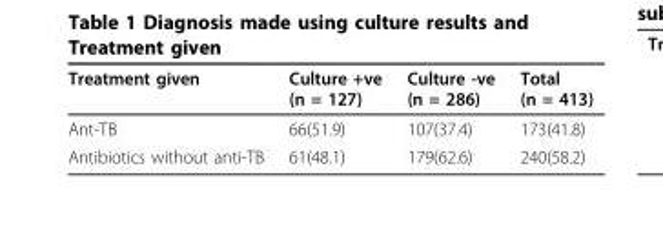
<table><thead><tr><td>Treatment given</td><td>Culture +ve (n = 127)</td><td>Culture -ve (n = 286)</td><td>Total (n = 413)</td></tr></thead><tbody><tr><td>Ant-TB</td><td>66(51.9)</td><td>107(37.4)</td><td>173(41.8)</td></tr><tr><td>Antibiotics without anti-TB</td><td>61(48.1)</td><td>179(62.6)</td><td>240(58.2)</td></tr></tbody></table>